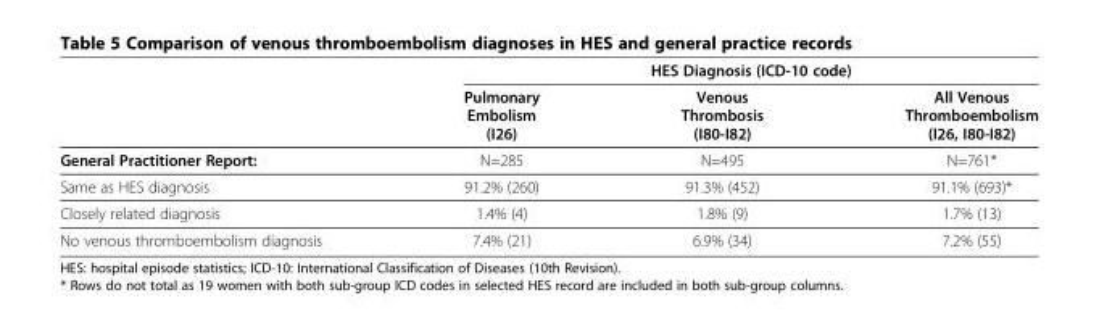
<table><thead><tr><td rowspan="2"></td><td colspan="3">HES Diagnosis (ICD-10 code)</td></tr><tr><td>Pulmonary Embolism (I26)</td><td>Venous Thrombosis (I80-I82)</td><td>All Venous Thromboembolism (I26, I80-I82)</td></tr></thead><tbody><tr><td>General Practitioner Report:</td><td>N=285</td><td>N=495</td><td>N=761*</td></tr><tr><td>Same as HES diagnosis</td><td>91.2% (260)</td><td>91.3% (452)</td><td>91.1% (693)*</td></tr><tr><td>Closely related diagnosis</td><td>1.4% (4)</td><td>1.8% (9)</td><td>1.7% (13)</td></tr><tr><td>No venous thromboembolism diagnosis</td><td>7.4% (21)</td><td>6.9% (34)</td><td>7.2% (55)</td></tr></tbody></table>